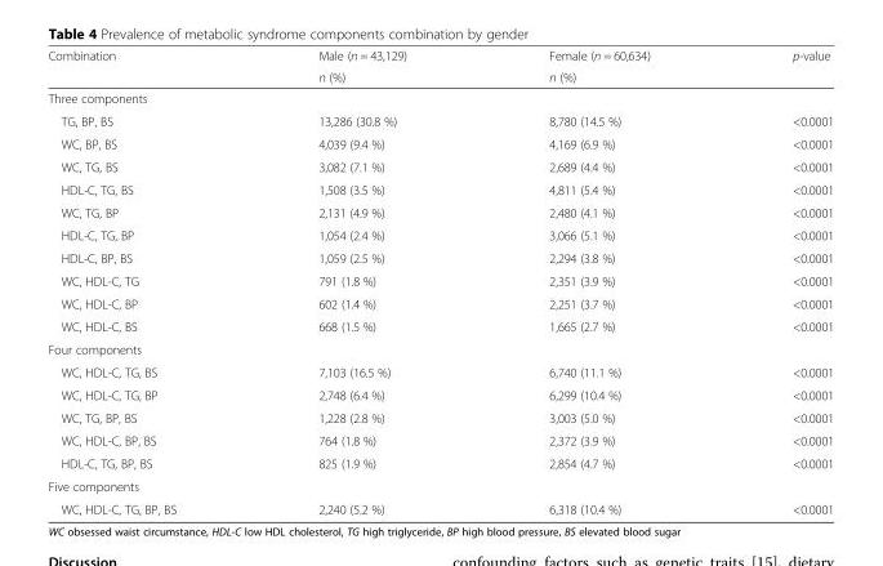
<table><thead><tr><td rowspan="2">Combination</td><td rowspan="2">Male (n = 43,129) n (%)</td><td rowspan="2">Female (n = 60,634) n (%)</td><td rowspan="2">p-value</td></tr><tr></tr></thead><tbody><tr><td colspan="4">Three components</td></tr><tr><td>TG, BP, BS</td><td>13,286 (30.8 %)</td><td>8,780 (14.5 %)</td><td>&lt;0.0001</td></tr><tr><td>WC, BP, BS</td><td>4,039 (9.4 %)</td><td>4,169 (6.9 %)</td><td>&lt;0.0001</td></tr><tr><td>WC, TG, BS</td><td>3,082 (7.1 %)</td><td>2,689 (4.4 %)</td><td>&lt;0.0001</td></tr><tr><td>HDL-C, TG, BS</td><td>1,508 (3.5 %)</td><td>4,811 (5.4 %)</td><td>&lt;0.0001</td></tr><tr><td>WC, TG, BP</td><td>2,131 (4.9 %)</td><td>2,480 (4.1 %)</td><td>&lt;0.0001</td></tr><tr><td>HDL-C, TG, BP</td><td>1,054 (2.4 %)</td><td>3,066 (5.1 %)</td><td>&lt;0.0001</td></tr><tr><td>HDL-C, BP, BS</td><td>1,059 (2.5 %)</td><td>2,294 (3.8 %)</td><td>&lt;0.0001</td></tr><tr><td>WC, HDL-C, TG</td><td>791 (1.8 %)</td><td>2,351 (3.9 %)</td><td>&lt;0.0001</td></tr><tr><td>WC, HDL-C, BP</td><td>602 (1.4 %)</td><td>2,251 (3.7 %)</td><td>&lt;0.0001</td></tr><tr><td>WC, HDL-C, BS</td><td>668 (1.5 %)</td><td>1,665 (2.7 %)</td><td>&lt;0.0001</td></tr><tr><td colspan="4">Four components</td></tr><tr><td>WC, HDL-C, TG, BS</td><td>7,103 (16.5 %)</td><td>6,740 (11.1 %)</td><td>&lt;0.0001</td></tr><tr><td>WC, HDL-C, TG, BP</td><td>2,748 (6.4 %)</td><td>6,299 (10.4 %)</td><td>&lt;0.0001</td></tr><tr><td>WC, TG, BP, BS</td><td>1,228 (2.8 %)</td><td>3,003 (5.0 %)</td><td>&lt;0.0001</td></tr><tr><td>WC, HDL-C, BP, BS</td><td>764 (1.8 %)</td><td>2,372 (3.9 %)</td><td>&lt;0.0001</td></tr><tr><td>HDL-C, TG, BP, BS</td><td>825 (1.9 %)</td><td>2,854 (4.7 %)</td><td>&lt;0.0001</td></tr><tr><td colspan="4">Five components</td></tr><tr><td>WC, HDL-C, TG, BP, BS</td><td>2,240 (5.2 %)</td><td>6,318 (10.4 %)</td><td>&lt;0.0001</td></tr></tbody></table>